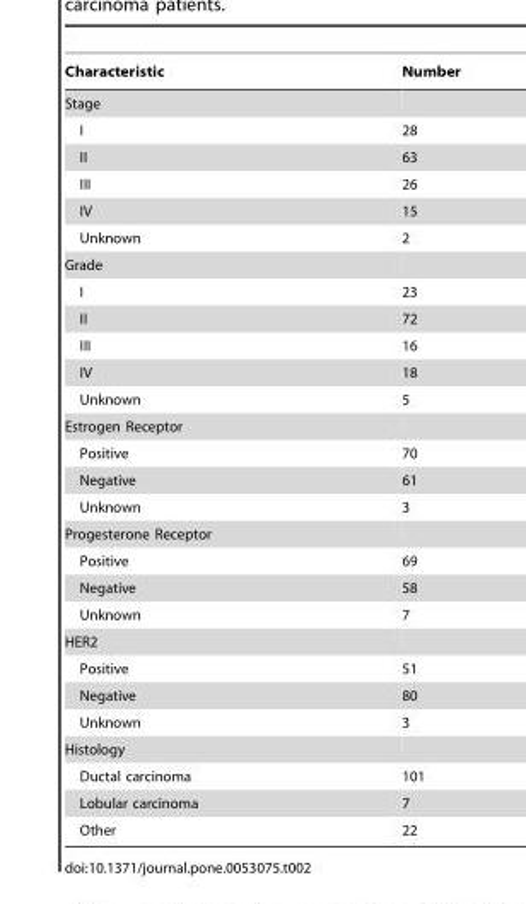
<table><thead><tr><td>Characteristic</td><td>Number</td></tr></thead><tbody><tr><td colspan="2">Stage</td></tr><tr><td>I</td><td>28</td></tr><tr><td>II</td><td>63</td></tr><tr><td>III</td><td>26</td></tr><tr><td>IV</td><td>15</td></tr><tr><td>Unknown</td><td>2</td></tr><tr><td colspan="2">Grade</td></tr><tr><td>I</td><td>23</td></tr><tr><td>II</td><td>72</td></tr><tr><td>III</td><td>16</td></tr><tr><td>IV</td><td>18</td></tr><tr><td>Unknown</td><td>5</td></tr><tr><td colspan="2">Estrogen Receptor</td></tr><tr><td>Positive</td><td>70</td></tr><tr><td>Negative</td><td>61</td></tr><tr><td>Unknown</td><td>3</td></tr><tr><td colspan="2">Progesterone Receptor</td></tr><tr><td>Positive</td><td>69</td></tr><tr><td>Negative</td><td>58</td></tr><tr><td>Unknown</td><td>7</td></tr><tr><td colspan="2">HER2</td></tr><tr><td>Positive</td><td>51</td></tr><tr><td>Negative</td><td>80</td></tr><tr><td>Unknown</td><td>3</td></tr><tr><td colspan="2">Histology</td></tr><tr><td>Ductal carcinoma</td><td>101</td></tr><tr><td>Lobular carcinoma</td><td>7</td></tr><tr><td>Other</td><td>22</td></tr></tbody></table>